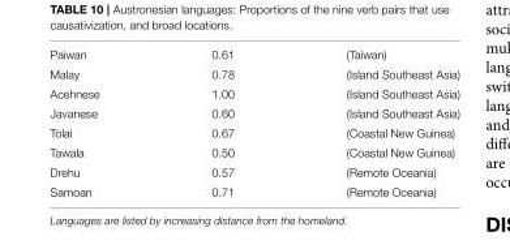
<table><tbody><tr><td>Paiwan</td><td>0.61</td><td>(Taiwan)</td></tr><tr><td>Malay</td><td>0.78</td><td>(Island Southeast Asia)</td></tr><tr><td>Acehnese</td><td>1.00</td><td>(Island Southeast Asia)</td></tr><tr><td>Javanese</td><td>0.60</td><td>(Island Southeast Asia)</td></tr><tr><td>Tolai</td><td>0.67</td><td>(Coastal New Guinea)</td></tr><tr><td>Tawala</td><td>0.50</td><td>(Coastal New Guinea)</td></tr><tr><td>Drehu</td><td>0.57</td><td>(Remote Oceania)</td></tr><tr><td>Samoan</td><td>0.71</td><td>(Remote Oceania)</td></tr></tbody></table>